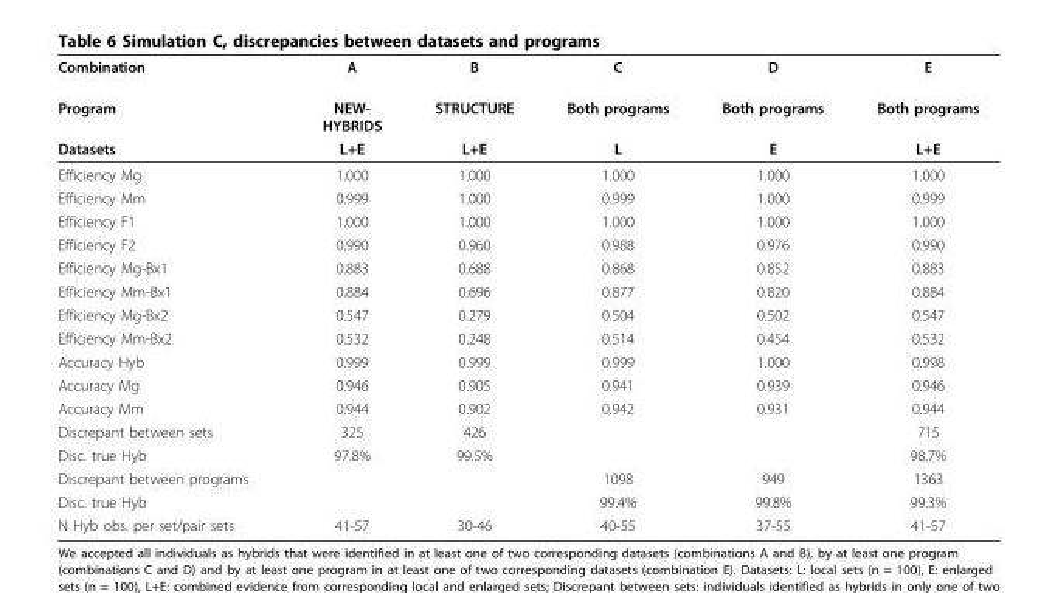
<table><thead><tr><td rowspan="3">Combination Program Datasets</td><td rowspan="3">A NEW- HYBRIDS L+E</td><td rowspan="3">B STRUCTURE L+E</td><td rowspan="3">C Both programs L</td><td rowspan="3">D Both programs E</td><td rowspan="3">E Both programs L+E</td></tr><tr></tr><tr></tr></thead><tbody><tr><td>Efficiency Mg</td><td>1.000</td><td>1.000</td><td>1.000</td><td>1.000</td><td>1.000</td></tr><tr><td>Efficiency Mm</td><td>0.999</td><td>1.000</td><td>0.999</td><td>1.000</td><td>0.999</td></tr><tr><td>Efficiency F1</td><td>1.000</td><td>1.000</td><td>1.000</td><td>1.000</td><td>1.000</td></tr><tr><td>Efficiency F2</td><td>0.990</td><td>0.960</td><td>0.988</td><td>0.976</td><td>0.990</td></tr><tr><td>Efficiency Mg-Bx1</td><td>0.883</td><td>0.688</td><td>0.868</td><td>0.852</td><td>0.883</td></tr><tr><td>Efficiency Mm-Bx1</td><td>0.884</td><td>0.696</td><td>0.877</td><td>0.820</td><td>0.884</td></tr><tr><td>Efficiency Mg-Bx2</td><td>0.547</td><td>0.279</td><td>0.504</td><td>0.502</td><td>0.547</td></tr><tr><td>Efficiency Mm-Bx2</td><td>0.532</td><td>0.248</td><td>0.514</td><td>0.454</td><td>0.532</td></tr><tr><td>Accuracy Hyb</td><td>0.999</td><td>0.999</td><td>0.999</td><td>1.000</td><td>0.998</td></tr><tr><td>Accuracy Mg</td><td>0.946</td><td>0.905</td><td>0.941</td><td>0.939</td><td>0.946</td></tr><tr><td>Accuracy Mm</td><td>0.944</td><td>0.902</td><td>0.942</td><td>0.931</td><td>0.944</td></tr><tr><td>Discrepant between sets</td><td>325</td><td>426</td><td></td><td></td><td>715</td></tr><tr><td>Disc. true Hyb</td><td>97.8%</td><td>99.5%</td><td></td><td></td><td>98.7%</td></tr><tr><td>Discrepant between programs</td><td></td><td></td><td>1098</td><td>949</td><td>1363</td></tr><tr><td>Disc. true Hyb</td><td></td><td></td><td>99.4%</td><td>99.8%</td><td>99.3%</td></tr><tr><td>N Hyb obs. per set/pair sets</td><td>41-57</td><td>30-46</td><td>40-55</td><td>37-55</td><td>41-57</td></tr></tbody></table>